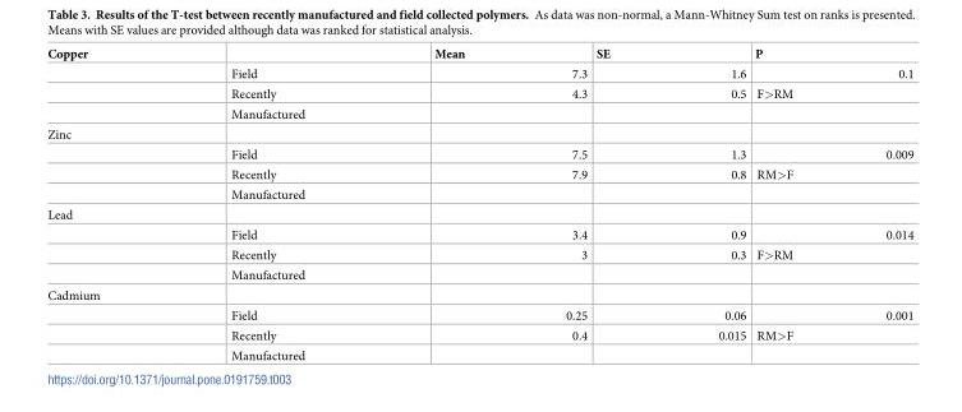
<table><thead><tr><td>Copper</td><td></td><td>Mean</td><td>SE</td><td>P</td></tr></thead><tbody><tr><td></td><td>Field</td><td>7.3</td><td>1.6</td><td>0.1</td></tr><tr><td></td><td>Recently</td><td>4.3</td><td>0.5</td><td>F&gt;RM</td></tr><tr><td></td><td>Manufactured</td><td></td><td></td><td></td></tr><tr><td colspan="5">Zinc</td></tr><tr><td></td><td>Field</td><td>7.5</td><td>1.3</td><td>0.009</td></tr><tr><td></td><td>Recently</td><td>7.9</td><td>0.8</td><td>RM&gt;F</td></tr><tr><td></td><td>Manufactured</td><td></td><td></td><td></td></tr><tr><td colspan="5">Lead</td></tr><tr><td></td><td>Field</td><td>3.4</td><td>0.9</td><td>0.014</td></tr><tr><td></td><td>Recently</td><td>3</td><td>0.3</td><td>F&gt;RM</td></tr><tr><td></td><td>Manufactured</td><td></td><td></td><td></td></tr><tr><td colspan="5">Cadmium</td></tr><tr><td></td><td>Field</td><td>0.25</td><td>0.06</td><td>0.001</td></tr><tr><td></td><td>Recently</td><td>0.4</td><td>0.015</td><td>RM&gt;F</td></tr><tr><td></td><td>Manufactured</td><td></td><td></td><td></td></tr></tbody></table>